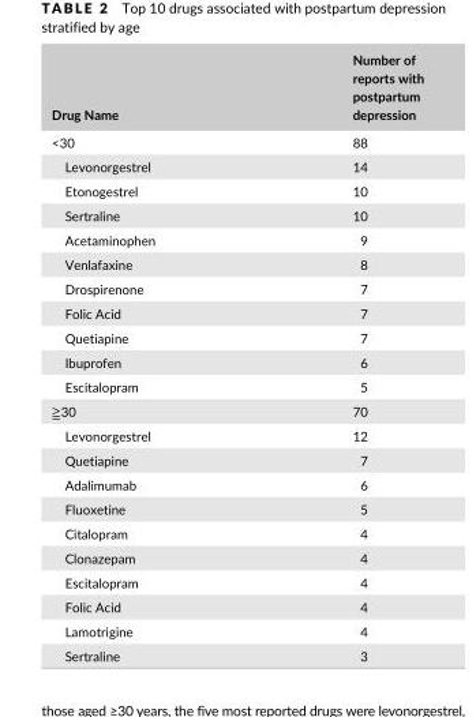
<table><thead><tr><td>Drug Name</td><td>Number of reports with postpartum depression</td></tr></thead><tbody><tr><td>&lt;30</td><td>88</td></tr><tr><td>Levonorgestrel</td><td>14</td></tr><tr><td>Etonogestrel</td><td>10</td></tr><tr><td>Sertraline</td><td>10</td></tr><tr><td>Acetaminophen</td><td>9</td></tr><tr><td>Venlafaxine</td><td>8</td></tr><tr><td>Drospirenone</td><td>7</td></tr><tr><td>Folic Acid</td><td>7</td></tr><tr><td>Quetiapine</td><td>7</td></tr><tr><td>Ibuprofen</td><td>6</td></tr><tr><td>Escitalopram</td><td>5</td></tr><tr><td>≧30</td><td>70</td></tr><tr><td>Levonorgestrel</td><td>12</td></tr><tr><td>Quetiapine</td><td>7</td></tr><tr><td>Adalimumab</td><td>6</td></tr><tr><td>Fluoxetine</td><td>5</td></tr><tr><td>Citalopram</td><td>4</td></tr><tr><td>Clonazepam</td><td>4</td></tr><tr><td>Escitalopram</td><td>4</td></tr><tr><td>Folic Acid</td><td>4</td></tr><tr><td>Lamotrigine</td><td>4</td></tr><tr><td>Sertraline</td><td>3</td></tr></tbody></table>